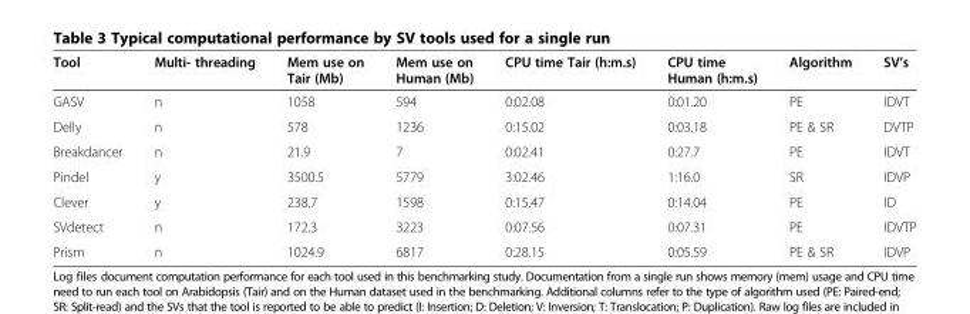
<table><thead><tr><td>Tool</td><td>Multi- threading</td><td>Mem use on Tair (Mb)</td><td>Mem use on Human (Mb)</td><td>CPU time Tair (h:m.s)</td><td>CPU time Human (h:m.s)</td><td>Algorithm</td><td>SV’s</td></tr></thead><tbody><tr><td>GASV</td><td>n</td><td>1058</td><td>594</td><td>0:02.08</td><td>0:01.20</td><td>PE</td><td>IDVT</td></tr><tr><td>Delly</td><td>n</td><td>578</td><td>1236</td><td>0:15.02</td><td>0:03.18</td><td>PE &amp; SR</td><td>DVTP</td></tr><tr><td>Breakdancer</td><td>n</td><td>21.9</td><td>7</td><td>0:02.41</td><td>0:27.7</td><td>PE</td><td>IDVT</td></tr><tr><td>Pindel</td><td>y</td><td>3500.5</td><td>5779</td><td>3:02.46</td><td>1:16.0</td><td>SR</td><td>IDVP</td></tr><tr><td>Clever</td><td>y</td><td>238.7</td><td>1598</td><td>0:15.47</td><td>0:14.04</td><td>PE</td><td>ID</td></tr><tr><td>SVdetect</td><td>n</td><td>172.3</td><td>3223</td><td>0:07.56</td><td>0:07.31</td><td>PE</td><td>IDVTP</td></tr><tr><td>Prism</td><td>n</td><td>1024.9</td><td>6817</td><td>0:28.15</td><td>0:05.59</td><td>PE &amp; SR</td><td>IDVP</td></tr></tbody></table>